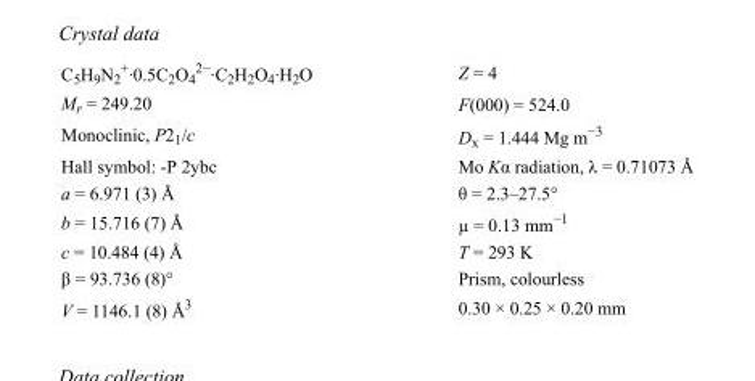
<table><tbody><tr><td>C<sub>5</sub>H<sub>9</sub>N<sub>2</sub> <sup>+</sup>·0.5C<sub>2</sub>O<sub>4</sub> <sup>2−</sup>·C<sub>2</sub>H<sub>2</sub>O<sub>4</sub>·H<sub>2</sub>O</td><td>Z = 4</td></tr><tr><td>M<sub>r</sub> = 249.20</td><td>F(000) = 524.0</td></tr><tr><td>Monoclinic, P2<sub>1</sub>/c</td><td>D<sub>x</sub> = 1.444 Mg m<sup>−3</sup></td></tr><tr><td>Hall symbol: -P 2ybc</td><td>Mo Kα radiation, λ = 0.71073 Å</td></tr><tr><td>a = 6.971 (3) Å</td><td>θ = 2.3–27.5°</td></tr><tr><td>b = 15.716 (7) Å</td><td>µ = 0.13 mm<sup>−1</sup></td></tr><tr><td>c = 10.484 (4) Å</td><td>T = 293 K</td></tr><tr><td>β = 93.736 (8)°</td><td>Prism, colourless</td></tr><tr><td>V = 1146.1 (8) Å<sup>3</sup></td><td>0.30 × 0.25 × 0.20 mm</td></tr></tbody></table>